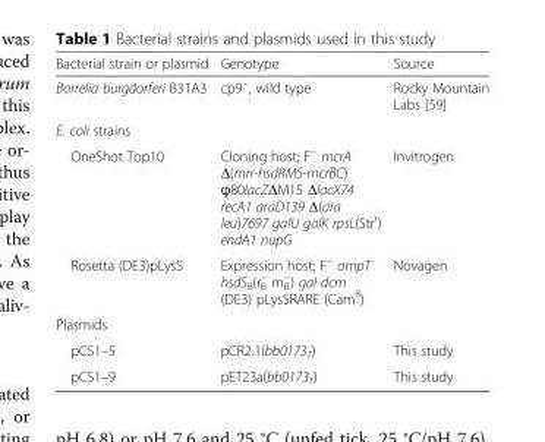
<table><thead><tr><td>Bacterial strain or plasmid</td><td>Genotype</td><td>Source</td></tr></thead><tbody><tr><td>Borrelia burgdorferi B31A3</td><td>cp9<sup>−</sup>, wild type</td><td>Rocky Mountain Labs [59]</td></tr><tr><td colspan="3">E. coli strains</td></tr><tr><td>OneShot Top10</td><td>Cloning host; F<sup>−</sup> mcrA Δ(mrr-hsdRMS-mcrBC) ϕ80lacZΔM15 ΔlacX74 recA1 araD139 Δ(ara leu)7697 galU galK rpsL(Str<sup>r</sup>) endA1 nupG</td><td>Invitrogen</td></tr><tr><td>Rosetta (DE3)pLysS</td><td>Expression host; F<sup>−</sup> ompT hsdS<sub>B</sub>(r<sub>B</sub> <sup>−</sup> m<sub>B</sub> <sup>−</sup>) gal dcm (DE3) pLysSRARE (Cam<sup>R</sup>)</td><td>Novagen</td></tr><tr><td colspan="3">Plasmids</td></tr><tr><td>pCS1–5</td><td>pCR2.1(bb0173<sub>T</sub>)</td><td>This study</td></tr><tr><td>pCS1–9</td><td>pET23a(bb0173<sub>T</sub>)</td><td>This study</td></tr></tbody></table>